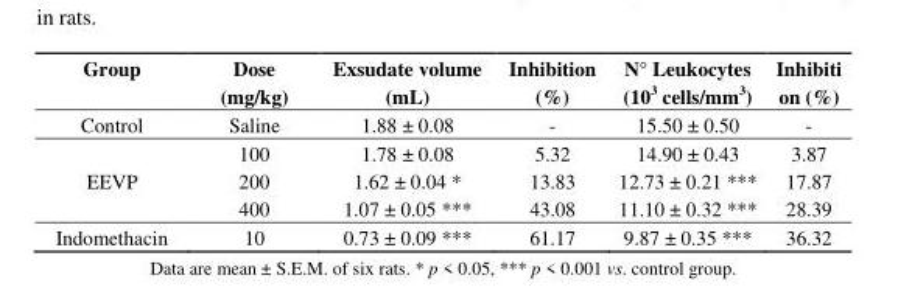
<table><thead><tr><td>Group</td><td>Dose (mg/kg)</td><td>Exsudate volume (mL)</td><td>Inhibition (%)</td><td>N° Leukocytes (10<sup>3</sup> cells/mm<sup>3</sup>)</td><td>Inhibiti on (%)</td></tr></thead><tbody><tr><td rowspan="2">Control</td><td>Saline</td><td>1.88 ± 0.08</td><td>-</td><td>15.50 ± 0.50</td><td>-</td></tr><tr><td>100</td><td>1.78 ± 0.08</td><td>5.32</td><td>14.90 ± 0.43</td><td>3.87</td></tr><tr><td rowspan="2">EEVP</td><td>200</td><td>1.62 ± 0.04 *</td><td>13.83</td><td>12.73 ± 0.21 ***</td><td>17.87</td></tr><tr><td>400</td><td>1.07 ± 0.05 ***</td><td>43.08</td><td>11.10 ± 0.32 ***</td><td>28.39</td></tr><tr><td>Indomethacin</td><td>10</td><td>0.73 ± 0.09 ***</td><td>61.17</td><td>9.87 ± 0.35 ***</td><td>36.32</td></tr></tbody></table>